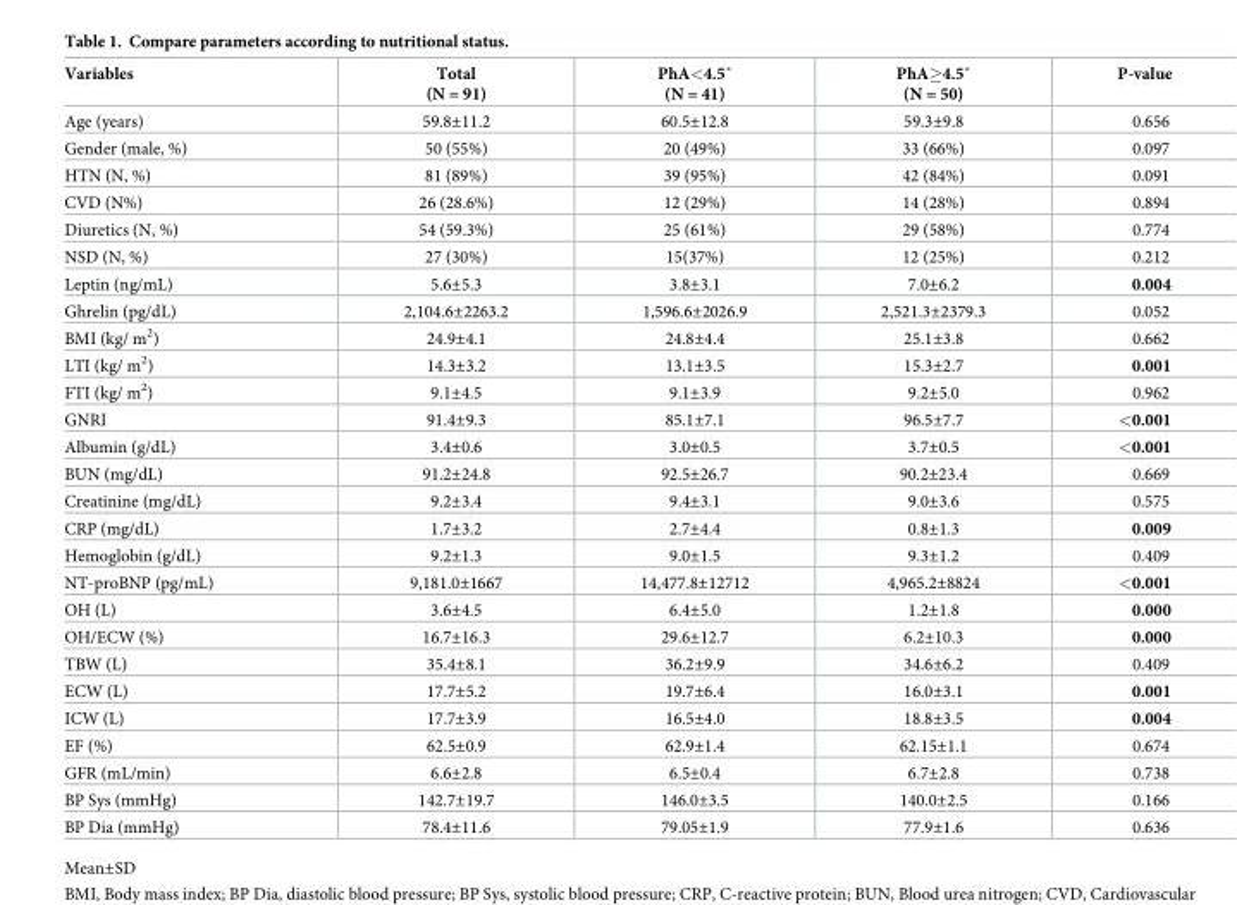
<table><thead><tr><td>Variables</td><td>Total (N = 91)</td><td>PhA&lt;4.5˚ (N = 41)</td><td>PhA≥4.5˚ (N = 50)</td><td>P-value</td></tr></thead><tbody><tr><td>Age (years)</td><td>59.8±11.2</td><td>60.5±12.8</td><td>59.3±9.8</td><td>0.656</td></tr><tr><td>Gender (male, %)</td><td>50 (55%)</td><td>20 (49%)</td><td>33 (66%)</td><td>0.097</td></tr><tr><td>HTN (N, %)</td><td>81 (89%)</td><td>39 (95%)</td><td>42 (84%)</td><td>0.091</td></tr><tr><td>CVD (N%)</td><td>26 (28.6%)</td><td>12 (29%)</td><td>14 (28%)</td><td>0.894</td></tr><tr><td>Diuretics (N, %)</td><td>54 (59.3%)</td><td>25 (61%)</td><td>29 (58%)</td><td>0.774</td></tr><tr><td>NSD (N, %)</td><td>27 (30%)</td><td>15(37%)</td><td>12 (25%)</td><td>0.212</td></tr><tr><td>Leptin (ng/mL)</td><td>5.6±5.3</td><td>3.8±3.1</td><td>7.0±6.2</td><td>0.004</td></tr><tr><td>Ghrelin (pg/dL)</td><td>2,104.6±2263.2</td><td>1,596.6±2026.9</td><td>2,521.3±2379.3</td><td>0.052</td></tr><tr><td>BMI (kg/ m<sup>2</sup>)</td><td>24.9±4.1</td><td>24.8±4.4</td><td>25.1±3.8</td><td>0.662</td></tr><tr><td>LTI (kg/ m<sup>2</sup>)</td><td>14.3±3.2</td><td>13.1±3.5</td><td>15.3±2.7</td><td>0.001</td></tr><tr><td>FTI (kg/ m<sup>2</sup>)</td><td>9.1±4.5</td><td>9.1±3.9</td><td>9.2±5.0</td><td>0.962</td></tr><tr><td>GNRI</td><td>91.4±9.3</td><td>85.1±7.1</td><td>96.5±7.7</td><td>&lt;0.001</td></tr><tr><td>Albumin (g/dL)</td><td>3.4±0.6</td><td>3.0±0.5</td><td>3.7±0.5</td><td>&lt;0.001</td></tr><tr><td>BUN (mg/dL)</td><td>91.2±24.8</td><td>92.5±26.7</td><td>90.2±23.4</td><td>0.669</td></tr><tr><td>Creatinine (mg/dL)</td><td>9.2±3.4</td><td>9.4±3.1</td><td>9.0±3.6</td><td>0.575</td></tr><tr><td>CRP (mg/dL)</td><td>1.7±3.2</td><td>2.7±4.4</td><td>0.8±1.3</td><td>0.009</td></tr><tr><td>Hemoglobin (g/dL)</td><td>9.2±1.3</td><td>9.0±1.5</td><td>9.3±1.2</td><td>0.409</td></tr><tr><td>NT-proBNP (pg/mL)</td><td>9,181.0±1667</td><td>14,477.8±12712</td><td>4,965.2±8824</td><td>&lt;0.001</td></tr><tr><td>OH (L)</td><td>3.6±4.5</td><td>6.4±5.0</td><td>1.2±1.8</td><td>0.000</td></tr><tr><td>OH/ECW (%)</td><td>16.7±16.3</td><td>29.6±12.7</td><td>6.2±10.3</td><td>0.000</td></tr><tr><td>TBW (L)</td><td>35.4±8.1</td><td>36.2±9.9</td><td>34.6±6.2</td><td>0.409</td></tr><tr><td>ECW (L)</td><td>17.7±5.2</td><td>19.7±6.4</td><td>16.0±3.1</td><td>0.001</td></tr><tr><td>ICW (L)</td><td>17.7±3.9</td><td>16.5±4.0</td><td>18.8±3.5</td><td>0.004</td></tr><tr><td>EF (%)</td><td>62.5±0.9</td><td>62.9±1.4</td><td>62.15±1.1</td><td>0.674</td></tr><tr><td>GFR (mL/min)</td><td>6.6±2.8</td><td>6.5±0.4</td><td>6.7±2.8</td><td>0.738</td></tr><tr><td>BP Sys (mmHg)</td><td>142.7±19.7</td><td>146.0±3.5</td><td>140.0±2.5</td><td>0.166</td></tr><tr><td>BP Dia (mmHg)</td><td>78.4±11.6</td><td>79.05±1.9</td><td>77.9±1.6</td><td>0.636</td></tr></tbody></table>